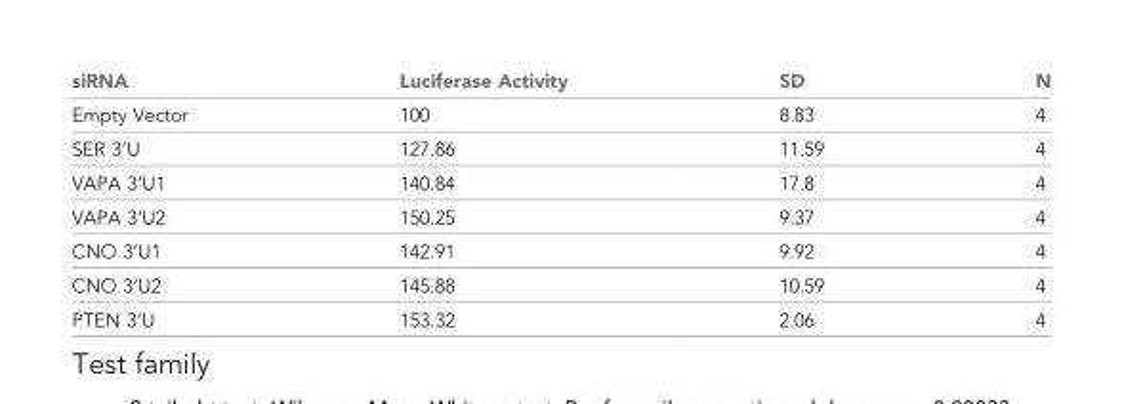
<table><thead><tr><td>siRNA</td><td>Luciferase Activity</td><td>SD</td><td>N</td></tr></thead><tbody><tr><td>Empty Vector</td><td>100</td><td>8.83</td><td>4</td></tr><tr><td>SER 3’U</td><td>127.86</td><td>11.59</td><td>4</td></tr><tr><td>VAPA 3’U1</td><td>140.84</td><td>17.8</td><td>4</td></tr><tr><td>VAPA 3’U2</td><td>150.25</td><td>9.37</td><td>4</td></tr><tr><td>CNO 3’U1</td><td>142.91</td><td>9.92</td><td>4</td></tr><tr><td>CNO 3’U2</td><td>145.88</td><td>10.59</td><td>4</td></tr><tr><td>PTEN 3’U</td><td>153.32</td><td>2.06</td><td>4</td></tr></tbody></table>